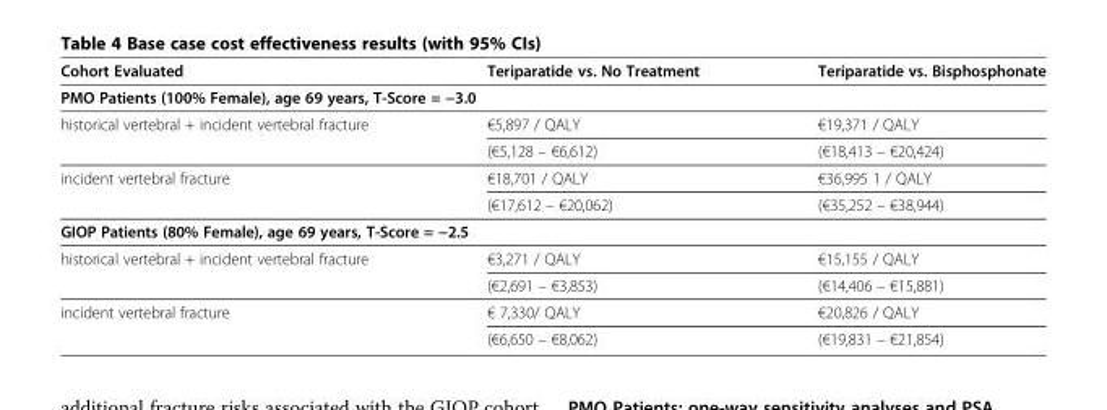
<table><thead><tr><td>Cohort Evaluated</td><td>Teriparatide vs. No Treatment</td><td>Teriparatide vs. Bisphosphonate</td></tr></thead><tbody><tr><td colspan="3">PMO Patients (100% Female), age 69 years, T-Score = −3.0</td></tr><tr><td rowspan="2">historical vertebral + incident vertebral fracture</td><td>€5,897 / QALY</td><td>€19,371 / QALY</td></tr><tr><td>(€5,128 – €6,612)</td><td>(€18,413 – €20,424)</td></tr><tr><td rowspan="2">incident vertebral fracture</td><td>€18,701 / QALY</td><td>€36,995 1 / QALY</td></tr><tr><td>(€17,612 – €20,062)</td><td>(€35,252 – €38,944)</td></tr><tr><td colspan="3">GIOP Patients (80% Female), age 69 years, T-Score = −2.5</td></tr><tr><td rowspan="2">historical vertebral + incident vertebral fracture</td><td>€3,271 / QALY</td><td>€15,155 / QALY</td></tr><tr><td>(€2,691 – €3,853)</td><td>(€14,406 – €15,881)</td></tr><tr><td rowspan="2">incident vertebral fracture</td><td>€ 7,330/ QALY</td><td>€20,826 / QALY</td></tr><tr><td>(€6,650 – €8,062)</td><td>(€19,831 – €21,854)</td></tr></tbody></table>